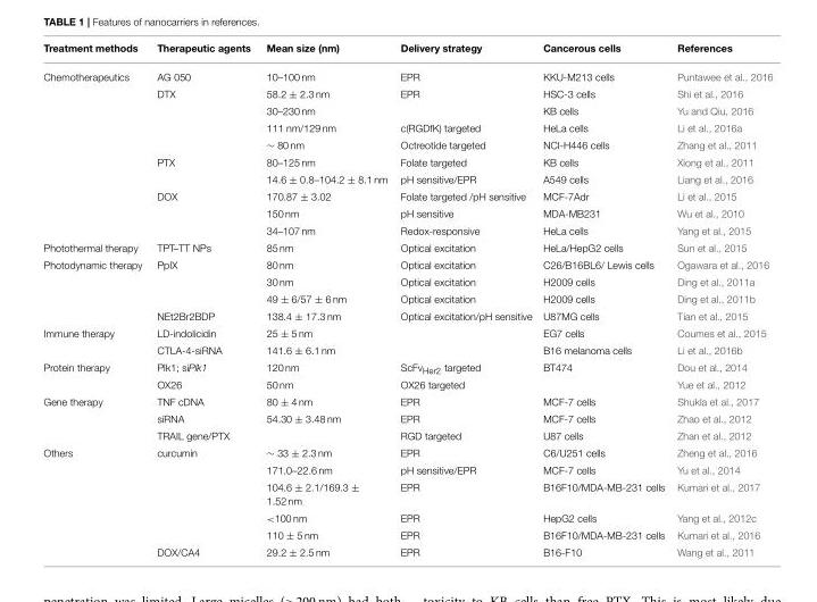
<table><thead><tr><td>Treatment methods</td><td>Therapeutic agents</td><td>Mean size (nm)</td><td>Delivery strategy</td><td>Cancerous cells</td><td>References</td></tr></thead><tbody><tr><td rowspan="10">Chemotherapeutics</td><td>AG 050</td><td>10–100 nm</td><td>EPR</td><td>KKU-M213 cells</td><td>Puntawee et al., 2016</td></tr><tr><td>DTX</td><td>58.2 ± 2.3 nm</td><td>EPR</td><td>HSC-3 cells</td><td>Shi et al., 2016</td></tr><tr><td></td><td>30–230 nm</td><td></td><td>KB cells</td><td>Yu and Qiu, 2016</td></tr><tr><td></td><td>111 nm/129 nm</td><td>c(RGDfK) targeted</td><td>HeLa cells</td><td>Li et al., 2016a</td></tr><tr><td></td><td>∼ 80 nm</td><td>Octreotide targeted</td><td>NCI-H446 cells</td><td>Zhang et al., 2011</td></tr><tr><td>PTX</td><td>80–125 nm</td><td>Folate targeted</td><td>KB cells</td><td>Xiong et al., 2011</td></tr><tr><td></td><td>14.6 ± 0.8–104.2 ± 8.1 nm</td><td>pH sensitive/EPR</td><td>A549 cells</td><td>Liang et al., 2016</td></tr><tr><td>DOX</td><td>170.87 ± 3.02</td><td>Folate targeted /pH sensitive</td><td>MCF-7Adr</td><td>Li et al., 2015</td></tr><tr><td></td><td>150 nm</td><td>pH sensitive</td><td>MDA-MB231</td><td>Wu et al., 2010</td></tr><tr><td></td><td>34–107 nm</td><td>Redox-responsive</td><td>HeLa cells</td><td>Yang et al., 2015</td></tr><tr><td>Photothermal therapy</td><td>TPT–TT NPs</td><td>85 nm</td><td>Optical excitation</td><td>HeLa/HepG2 cells</td><td>Sun et al., 2015</td></tr><tr><td rowspan="4">Photodynamic therapy</td><td>PpIX</td><td>80 nm</td><td>Optical excitation</td><td>C26/B16BL6/ Lewis cells</td><td>Ogawara et al., 2016</td></tr><tr><td></td><td>30 nm</td><td>Optical excitation</td><td>H2009 cells</td><td>Ding et al., 2011a</td></tr><tr><td></td><td>49 ± 6/57 ± 6 nm</td><td>Optical excitation</td><td>H2009 cells</td><td>Ding et al., 2011b</td></tr><tr><td>NEt2Br2BDP</td><td>138.4 ± 17.3 nm</td><td>Optical excitation/pH sensitive</td><td>U87MG cells</td><td>Tian et al., 2015</td></tr><tr><td rowspan="2">Immune therapy</td><td>LD-indolicidin</td><td>25 ± 5 nm</td><td></td><td>EG7 cells</td><td>Coumes et al., 2015</td></tr><tr><td>CTLA-4-siRNA</td><td>141.6 ± 6.1 nm</td><td></td><td>B16 melanoma cells</td><td>Li et al., 2016b</td></tr><tr><td rowspan="2">Protein therapy</td><td>Plk1; siPlk1</td><td>120 nm</td><td>ScFv<sub>Her2</sub> targeted</td><td>BT474</td><td>Dou et al., 2014</td></tr><tr><td>OX26</td><td>50 nm</td><td>OX26 targeted</td><td></td><td>Yue et al., 2012</td></tr><tr><td rowspan="3">Gene therapy</td><td>TNF cDNA</td><td>80 ± 4 nm</td><td>EPR</td><td>MCF-7 cells</td><td>Shukla et al., 2017</td></tr><tr><td>siRNA</td><td>54.30 ± 3.48 nm</td><td>EPR</td><td>MCF-7 cells</td><td>Zhao et al., 2012</td></tr><tr><td>TRAIL gene/PTX</td><td></td><td>RGD targeted</td><td>U87 cells</td><td>Zhan et al., 2012</td></tr><tr><td rowspan="6">Others</td><td>curcumin</td><td>∼ 33 ± 2.3 nm</td><td>EPR</td><td>C6/U251 cells</td><td>Zheng et al., 2016</td></tr><tr><td></td><td>171.0–22.6 nm</td><td>pH sensitive/EPR</td><td>MCF-7 cells</td><td>Yu et al., 2014</td></tr><tr><td></td><td>104.6 ± 2.1/169.3 ± 1.52 nm</td><td>EPR</td><td>B16F10/MDA-MB-231 cells</td><td>Kumari et al., 2017</td></tr><tr><td></td><td>&lt;100 nm</td><td>EPR</td><td>HepG2 cells</td><td>Yang et al., 2012c</td></tr><tr><td></td><td>110 ± 5 nm</td><td>EPR</td><td>B16F10/MDA-MB-231 cells</td><td>Kumari et al., 2016</td></tr><tr><td>DOX/CA4</td><td>29.2 ± 2.5 nm</td><td>EPR</td><td>B16-F10</td><td>Wang et al., 2011</td></tr></tbody></table>